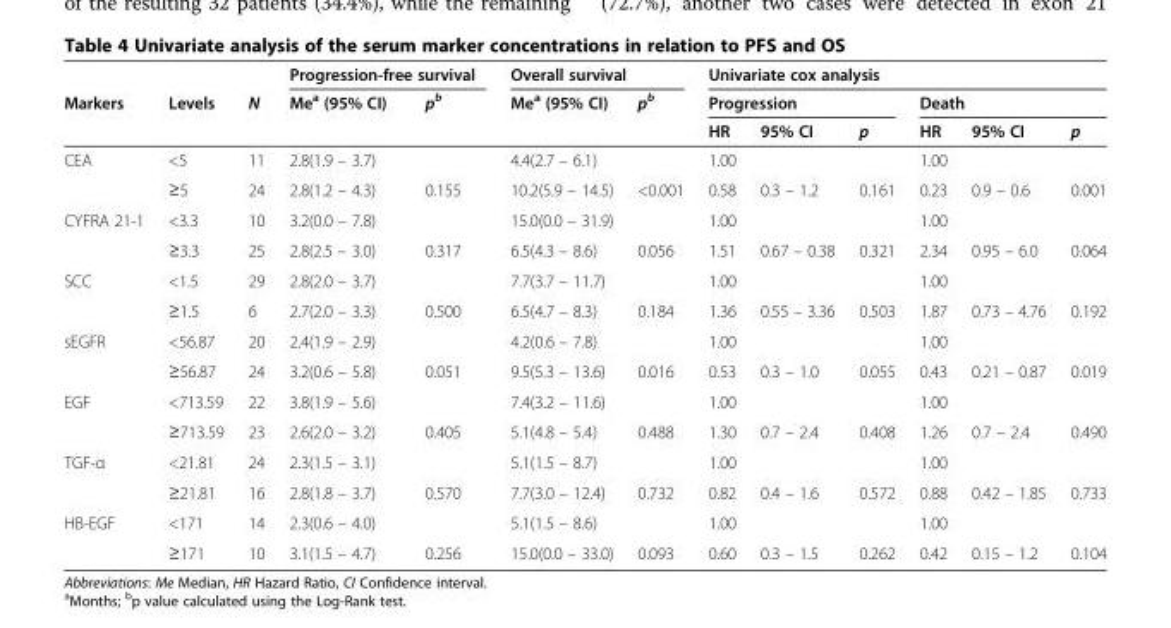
<table><thead><tr><td rowspan="3">Markers</td><td rowspan="3">Levels</td><td rowspan="3">N</td><td colspan="2">Progression-free survival</td><td colspan="2">Overall survival</td><td colspan="6">Univariate cox analysis</td></tr><tr><td rowspan="2">Me<sup>a</sup> (95% CI)</td><td rowspan="2">p<sup>b</sup></td><td rowspan="2">Me<sup>a</sup> (95% CI)</td><td rowspan="2">p<sup>b</sup></td><td colspan="3">Progression</td><td colspan="3">Death</td></tr><tr><td>HR</td><td>95% CI</td><td>p</td><td>HR</td><td>95% CI</td><td>p</td></tr></thead><tbody><tr><td rowspan="2">CEA</td><td>&lt;5</td><td>11</td><td>2.8(1.9 – 3.7)</td><td></td><td>4.4(2.7 – 6.1)</td><td></td><td>1.00</td><td></td><td></td><td>1.00</td><td></td><td></td></tr><tr><td>≥5</td><td>24</td><td>2.8(1.2 – 4.3)</td><td>0.155</td><td>10.2(5.9 – 14.5)</td><td>&lt;0.001</td><td>0.58</td><td>0.3 – 1.2</td><td>0.161</td><td>0.23</td><td>0.9 – 0.6</td><td>0.001</td></tr><tr><td rowspan="2">CYFRA 21-1</td><td>&lt;3.3</td><td>10</td><td>3.2(0.0 – 7.8)</td><td></td><td>15.0(0.0 – 31.9)</td><td></td><td>1.00</td><td></td><td></td><td>1.00</td><td></td><td></td></tr><tr><td>≥3.3</td><td>25</td><td>2.8(2.5 – 3.0)</td><td>0.317</td><td>6.5(4.3 – 8.6)</td><td>0.056</td><td>1.51</td><td>0.67 – 0.38</td><td>0.321</td><td>2.34</td><td>0.95 – 6.0</td><td>0.064</td></tr><tr><td rowspan="2">SCC</td><td>&lt;1.5</td><td>29</td><td>2.8(2.0 – 3.7)</td><td></td><td>7.7(3.7 – 11.7)</td><td></td><td>1.00</td><td></td><td></td><td>1.00</td><td></td><td></td></tr><tr><td>≥1.5</td><td>6</td><td>2.7(2.0 – 3.3)</td><td>0.500</td><td>6.5(4.7 – 8.3)</td><td>0.184</td><td>1.36</td><td>0.55 – 3.36</td><td>0.503</td><td>1.87</td><td>0.73 – 4.76</td><td>0.192</td></tr><tr><td rowspan="2">sEGFR</td><td>&lt;56.87</td><td>20</td><td>2.4(1.9 – 2.9)</td><td></td><td>4.2(0.6 – 7.8)</td><td></td><td>1.00</td><td></td><td></td><td>1.00</td><td></td><td></td></tr><tr><td>≥56.87</td><td>24</td><td>3.2(0.6 – 5.8)</td><td>0.051</td><td>9.5(5.3 – 13.6)</td><td>0.016</td><td>0.53</td><td>0.3 – 1.0</td><td>0.055</td><td>0.43</td><td>0.21 – 0.87</td><td>0.019</td></tr><tr><td rowspan="2">EGF</td><td>&lt;713.59</td><td>22</td><td>3.8(1.9 – 5.6)</td><td></td><td>7.4(3.2 – 11.6)</td><td></td><td>1.00</td><td></td><td></td><td>1.00</td><td></td><td></td></tr><tr><td>≥713.59</td><td>23</td><td>2.6(2.0 – 3.2)</td><td>0.405</td><td>5.1(4.8 – 5.4)</td><td>0.488</td><td>1.30</td><td>0.7 – 2.4</td><td>0.408</td><td>1.26</td><td>0.7 – 2.4</td><td>0.490</td></tr><tr><td rowspan="2">TGF-α</td><td>&lt;21.81</td><td>24</td><td>2.3(1.5 – 3.1)</td><td></td><td>5.1(1.5 – 8.7)</td><td></td><td>1.00</td><td></td><td></td><td>1.00</td><td></td><td></td></tr><tr><td>≥21.81</td><td>16</td><td>2.8(1.8 – 3.7)</td><td>0.570</td><td>7.7(3.0 – 12.4)</td><td>0.732</td><td>0.82</td><td>0.4 – 1.6</td><td>0.572</td><td>0.88</td><td>0.42 – 1.85</td><td>0.733</td></tr><tr><td rowspan="2">HB-EGF</td><td>&lt;171</td><td>14</td><td>2.3(0.6 – 4.0)</td><td></td><td>5.1(1.5 – 8.6)</td><td></td><td>1.00</td><td></td><td></td><td>1.00</td><td></td><td></td></tr><tr><td>≥171</td><td>10</td><td>3.1(1.5 – 4.7)</td><td>0.256</td><td>15.0(0.0 – 33.0)</td><td>0.093</td><td>0.60</td><td>0.3 – 1.5</td><td>0.262</td><td>0.42</td><td>0.15 – 1.2</td><td>0.104</td></tr></tbody></table>